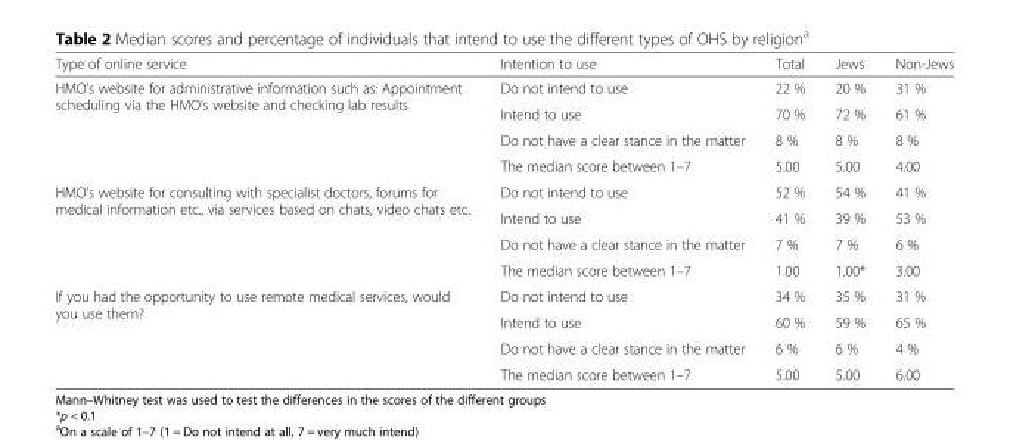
<table><thead><tr><td>Type of online service</td><td>Intention to use</td><td>Total</td><td>Jews</td><td>Non-Jews</td></tr></thead><tbody><tr><td rowspan="4">HMO’s website for administrative information such as: Appointment scheduling via the HMO’s website and checking lab results</td><td>Do not intend to use</td><td>22 %</td><td>20 %</td><td>31 %</td></tr><tr><td>Intend to use</td><td>70 %</td><td>72 %</td><td>61 %</td></tr><tr><td>Do not have a clear stance in the matter</td><td>8 %</td><td>8 %</td><td>8 %</td></tr><tr><td>The median score between 1–7</td><td>5.00</td><td>5.00</td><td>4.00</td></tr><tr><td rowspan="4">HMO’s website for consulting with specialist doctors, forums for medical information etc., via services based on chats, video chats etc.</td><td>Do not intend to use</td><td>52 %</td><td>54 %</td><td>41 %</td></tr><tr><td>Intend to use</td><td>41 %</td><td>39 %</td><td>53 %</td></tr><tr><td>Do not have a clear stance in the matter</td><td>7 %</td><td>7 %</td><td>6 %</td></tr><tr><td>The median score between 1–7</td><td>1.00</td><td>1.00*</td><td>3.00</td></tr><tr><td rowspan="4">If you had the opportunity to use remote medical services, would you use them?</td><td>Do not intend to use</td><td>34 %</td><td>35 %</td><td>31 %</td></tr><tr><td>Intend to use</td><td>60 %</td><td>59 %</td><td>65 %</td></tr><tr><td>Do not have a clear stance in the matter</td><td>6 %</td><td>6 %</td><td>4 %</td></tr><tr><td>The median score between 1–7</td><td>5.00</td><td>5.00</td><td>6.00</td></tr></tbody></table>